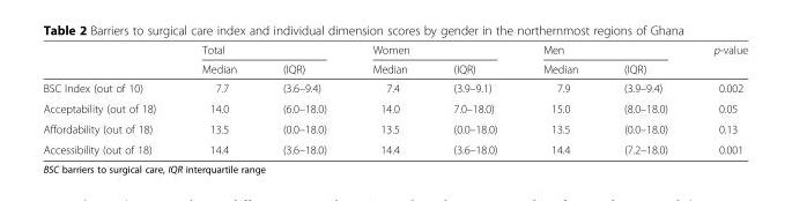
<table><thead><tr><td rowspan="2"></td><td colspan="2">Total</td><td colspan="2">Women</td><td colspan="2">Men</td><td rowspan="2">p-value</td></tr><tr><td>Median</td><td>(IQR)</td><td>Median</td><td>(IQR)</td><td>Median</td><td>(IQR)</td></tr></thead><tbody><tr><td>BSC Index (out of 10)</td><td>7.7</td><td>(3.6–9.4)</td><td>7.4</td><td>(3.9–9.1)</td><td>7.9</td><td>(3.9–9.4)</td><td>0.002</td></tr><tr><td>Acceptability (out of 18)</td><td>14.0</td><td>(6.0–18.0)</td><td>14.0</td><td>7.0–18.0)</td><td>15.0</td><td>(8.0–18.0)</td><td>0.05</td></tr><tr><td>Affordability (out of 18)</td><td>13.5</td><td>(0.0–18.0)</td><td>13.5</td><td>(0.0–18.0)</td><td>13.5</td><td>(0.0–18.0)</td><td>0.13</td></tr><tr><td>Accessibility (out of 18)</td><td>14.4</td><td>(3.6–18.0)</td><td>14.4</td><td>(3.6–18.0)</td><td>14.4</td><td>(7.2–18.0)</td><td>0.001</td></tr></tbody></table>